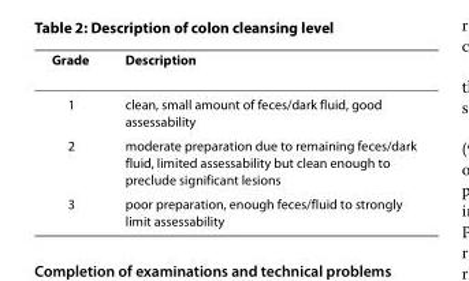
<table><thead><tr><td>Grade</td><td>Description</td></tr></thead><tbody><tr><td>1</td><td>clean, small amount of feces/dark fluid, good assessability</td></tr><tr><td>2</td><td>moderate preparation due to remaining feces/dark fluid, limited assessability but clean enough to preclude significant lesions</td></tr><tr><td>3</td><td>poor preparation, enough feces/fluid to strongly limit assessability</td></tr></tbody></table>